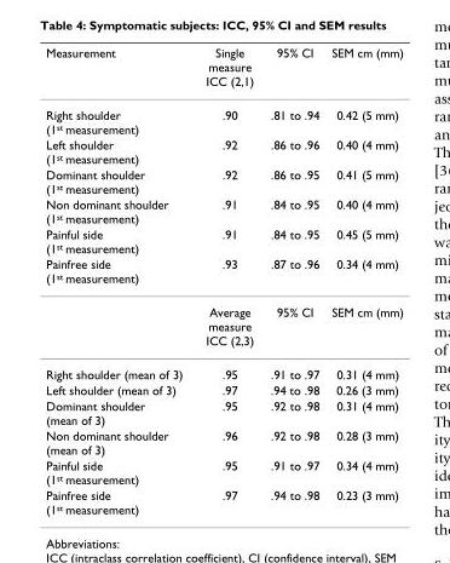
<table><thead><tr><td>Measurement</td><td>Single measure ICC (2,1)</td><td>95% CI</td><td>SEM cm (mm)</td></tr></thead><tbody><tr><td>Right shoulder (1<sup>st</sup> measurement)</td><td>.90</td><td>.81 to .94</td><td>0.42 (5 mm)</td></tr><tr><td>Left shoulder (1<sup>st</sup> measurement)</td><td>.92</td><td>.86 to .96</td><td>0.40 (4 mm)</td></tr><tr><td>Dominant shoulder (1<sup>st</sup> measurement)</td><td>.92</td><td>.86 to .95</td><td>0.41 (5 mm)</td></tr><tr><td>Non dominant shoulder (1<sup>st</sup> measurement)</td><td>.91</td><td>.84 to .95</td><td>0.40 (4 mm)</td></tr><tr><td>Painful side (1<sup>st</sup> measurement)</td><td>.91</td><td>.84 to .95</td><td>0.45 (5 mm)</td></tr><tr><td rowspan="2">Painfree side (1<sup>st</sup> measurement)</td><td>.93</td><td>.87 to .96</td><td>0.34 (4 mm)</td></tr><tr><td>Average measure ICC (2,3)</td><td>95% CI</td><td>SEM cm (mm)</td></tr><tr><td>Right shoulder (mean of 3)</td><td>.95</td><td>.91 to .97</td><td>0.31 (4 mm)</td></tr><tr><td>Left shoulder (mean of 3)</td><td>.97</td><td>.94 to .98</td><td>0.26 (3 mm)</td></tr><tr><td>Dominant shoulder (mean of 3)</td><td>.95</td><td>.92 to .98</td><td>0.31 (4 mm)</td></tr><tr><td>Non dominant shoulder (mean of 3)</td><td>.96</td><td>.92 to .98</td><td>0.28 (3 mm)</td></tr><tr><td>Painful side (1<sup>st</sup> measurement)</td><td>.95</td><td>.91 to .97</td><td>0.34 (4 mm)</td></tr><tr><td>Painfree side (1<sup>st</sup> measurement)</td><td>.97</td><td>.94 to .98</td><td>0.23 (3 mm)</td></tr></tbody></table>